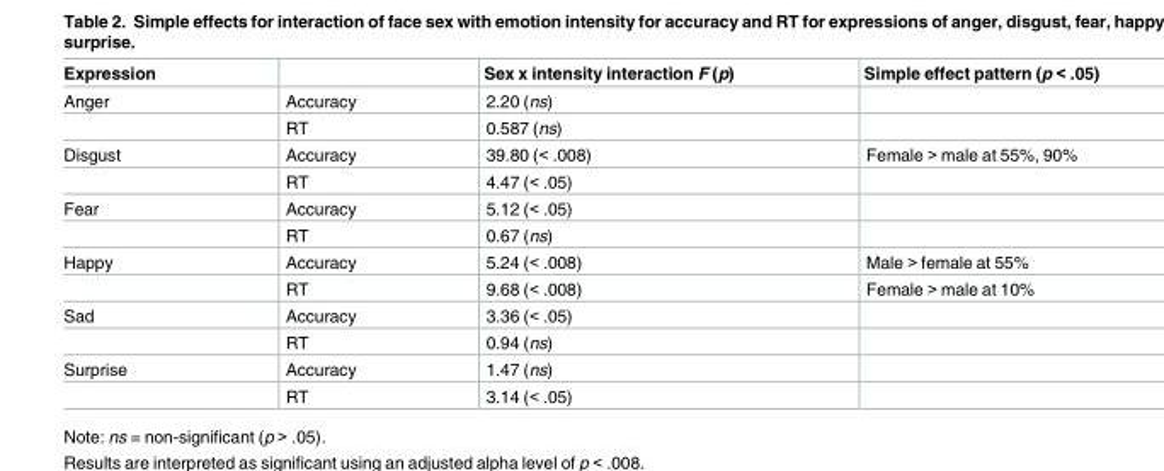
<table><thead><tr><td>Expression</td><td></td><td>Sex x intensity interaction F (p)</td><td>Simple effect pattern (p &lt; .05)</td></tr></thead><tbody><tr><td rowspan="2">Anger</td><td>Accuracy</td><td>2.20 (ns)</td><td></td></tr><tr><td>RT</td><td>0.587 (ns)</td><td></td></tr><tr><td rowspan="2">Disgust</td><td>Accuracy</td><td>39.80 (&lt; .008)</td><td>Female &gt; male at 55%, 90%</td></tr><tr><td>RT</td><td>4.47 (&lt; .05)</td><td></td></tr><tr><td rowspan="2">Fear</td><td>Accuracy</td><td>5.12 (&lt; .05)</td><td></td></tr><tr><td>RT</td><td>0.67 (ns)</td><td></td></tr><tr><td rowspan="2">Happy</td><td>Accuracy</td><td>5.24 (&lt; .008)</td><td>Male &gt; female at 55%</td></tr><tr><td>RT</td><td>9.68 (&lt; .008)</td><td>Female &gt; male at 10%</td></tr><tr><td rowspan="2">Sad</td><td>Accuracy</td><td>3.36 (&lt; .05)</td><td></td></tr><tr><td>RT</td><td>0.94 (ns)</td><td></td></tr><tr><td rowspan="2">Surprise</td><td>Accuracy</td><td>1.47 (ns)</td><td></td></tr><tr><td>RT</td><td>3.14 (&lt; .05)</td><td></td></tr></tbody></table>